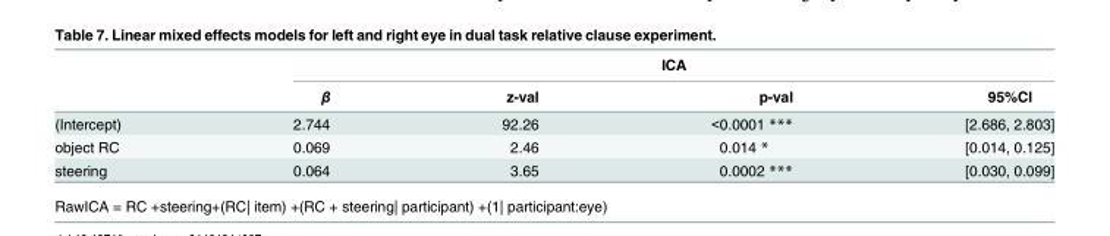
<table><thead><tr><td rowspan="2"></td><td colspan="4">ICA</td></tr><tr><td>β</td><td>z-val</td><td>p-val</td><td>95%CI</td></tr></thead><tbody><tr><td>(Intercept)</td><td>2.744</td><td>92.26</td><td>&lt;0.0001 ***</td><td>[2.686, 2.803]</td></tr><tr><td>object RC</td><td>0.069</td><td>2.46</td><td>0.014 *</td><td>[0.014, 0.125]</td></tr><tr><td>steering</td><td>0.064</td><td>3.65</td><td>0.0002 ***</td><td>[0.030, 0.099]</td></tr></tbody></table>